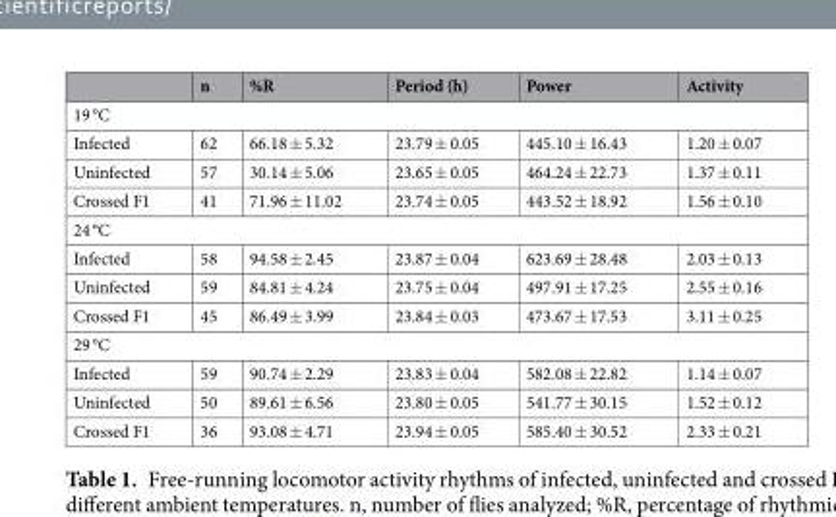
<table><thead><tr><td></td><td>n</td><td>%R</td><td>Period (h)</td><td>Power</td><td>Activity</td></tr></thead><tbody><tr><td colspan="6">19 °C</td></tr><tr><td>Infected</td><td>62</td><td>66.18 ± 5.32</td><td>23.79 ± 0.05</td><td>445.10 ± 16.43</td><td>1.20 ± 0.07</td></tr><tr><td>Uninfected</td><td>57</td><td>30.14 ± 5.06</td><td>23.65 ± 0.05</td><td>464.24 ± 22.73</td><td>1.37 ± 0.11</td></tr><tr><td>Crossed F1</td><td>41</td><td>71.96 ± 11.02</td><td>23.74 ± 0.05</td><td>443.52 ± 18.92</td><td>1.56 ± 0.10</td></tr><tr><td colspan="6">24 °C</td></tr><tr><td>Infected</td><td>58</td><td>94.58 ± 2.45</td><td>23.87 ± 0.04</td><td>623.69 ± 28.48</td><td>2.03 ± 0.13</td></tr><tr><td>Uninfected</td><td>59</td><td>84.81 ± 4.24</td><td>23.75 ± 0.04</td><td>497.91 ± 17.25</td><td>2.55 ± 0.16</td></tr><tr><td>Crossed F1</td><td>45</td><td>86.49 ± 3.99</td><td>23.84 ± 0.03</td><td>473.67 ± 17.53</td><td>3.11 ± 0.25</td></tr><tr><td colspan="6">29 °C</td></tr><tr><td>Infected</td><td>59</td><td>90.74 ± 2.29</td><td>23.83 ± 0.04</td><td>582.08 ± 22.82</td><td>1.14 ± 0.07</td></tr><tr><td>Uninfected</td><td>50</td><td>89.61 ± 6.56</td><td>23.80 ± 0.05</td><td>541.77 ± 30.15</td><td>1.52 ± 0.12</td></tr><tr><td>Crossed F1</td><td>36</td><td>93.08 ± 4.71</td><td>23.94 ± 0.05</td><td>585.40 ± 30.52</td><td>2.33 ± 0.21</td></tr></tbody></table>